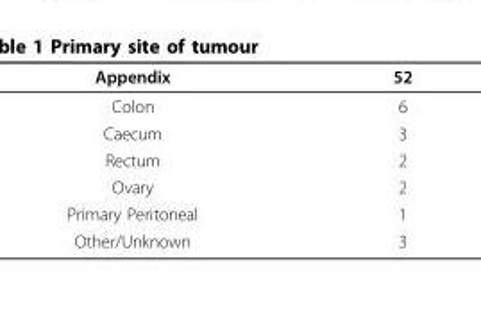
<table><thead><tr><td>Appendix</td><td>52</td></tr></thead><tbody><tr><td>Colon</td><td>6</td></tr><tr><td>Caecum</td><td>3</td></tr><tr><td>Rectum</td><td>2</td></tr><tr><td>Ovary</td><td>2</td></tr><tr><td>Primary Peritoneal</td><td>1</td></tr><tr><td>Other/Unknown</td><td>3</td></tr></tbody></table>